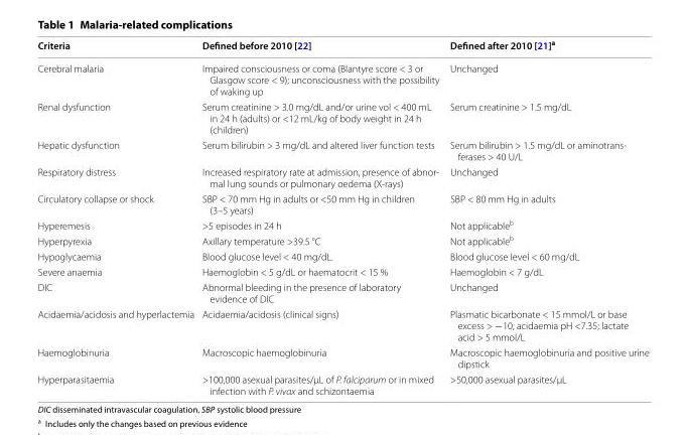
<table><thead><tr><td>Criteria</td><td>Defined before 2010 [22]</td><td>Defined after 2010 [21]<sup>a</sup></td></tr></thead><tbody><tr><td>Cerebral malaria</td><td>Impaired consciousness or coma (Blantyre score &lt; 3 or Glasgow score &lt; 9); unconsciousness with the possibility of waking up</td><td>Unchanged</td></tr><tr><td>Renal dysfunction</td><td>Serum creatinine &gt; 3.0 mg/dL and/or urine vol &lt; 400 mL in 24 h (adults) or &lt;12 mL/kg of body weight in 24 h (children)</td><td>Serum creatinine &gt; 1.5 mg/dL</td></tr><tr><td>Hepatic dysfunction</td><td>Serum bilirubin &gt; 3 mg/dL and altered liver function tests</td><td>Serum bilirubin &gt; 1.5 mg/dL or aminotrans‑ ferases &gt; 40 U/L</td></tr><tr><td>Respiratory distress</td><td>Increased respiratory rate at admission, presence of abnor‑ mal lung sounds or pulmonary oedema (X‑rays)</td><td>Unchanged</td></tr><tr><td>Circulatory collapse or shock</td><td>SBP &lt; 70 mm Hg in adults or &lt;50 mm Hg in children (3–5 years)</td><td>SBP &lt; 80 mm Hg in adults</td></tr><tr><td>Hyperemesis</td><td>&gt;5 episodes in 24 h</td><td>Not applicable<sup>b</sup></td></tr><tr><td>Hyperpyrexia</td><td>Axillary temperature &gt;39.5 °C</td><td>Not applicable<sup>b</sup></td></tr><tr><td>Hypoglycaemia</td><td>Blood glucose level &lt; 40 mg/dL.</td><td>Blood glucose level &lt; 60 mg/dL</td></tr><tr><td>Severe anaemia</td><td>Haemoglobin &lt; 5 g/dL or haematocrit &lt; 15 %</td><td>Haemoglobin &lt; 7 g/dL</td></tr><tr><td>DIC</td><td>Abnormal bleeding in the presence of laboratory evidence of DIC</td><td>Unchanged</td></tr><tr><td>Acidaemia/acidosis and hyperlactemia</td><td>Acidaemia/acidosis (clinical signs)</td><td>Plasmatic bicarbonate &lt; 15 mmol/L or base excess &gt; −10; acidaemia pH &lt;7.35; lactate acid &gt; 5 mmol/L</td></tr><tr><td>Haemoglobinuria</td><td>Macroscopic haemoglobinuria</td><td>Macroscopic haemoglobinuria and positive urine dipstick</td></tr><tr><td>Hyperparasitaemia</td><td>&gt;100,000 asexual parasites/μL of P. falciparum or in mixed infection with P. vivax and schizontaemia</td><td>&gt;50,000 asexual parasites/μL</td></tr></tbody></table>